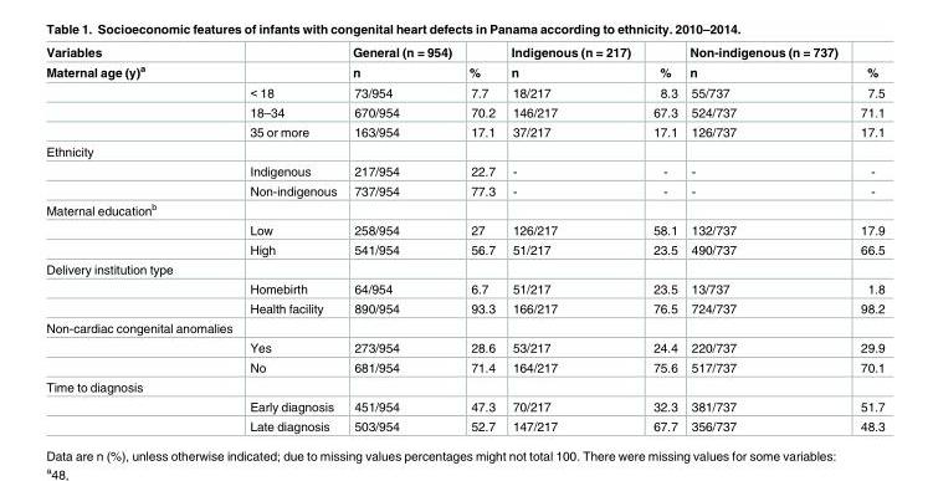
<table><thead><tr><td rowspan="2">Variables Maternal age (y)<sup>a</sup></td><td rowspan="2"></td><td rowspan="2">General (n = 954) n</td><td rowspan="2">%</td><td rowspan="2">Indigenous (n = 217) n</td><td rowspan="2">%</td><td rowspan="2">Non-indigenous (n = 737) n</td><td rowspan="2">%</td></tr><tr></tr></thead><tbody><tr><td></td><td>&lt; 18</td><td>73/954</td><td>7.7</td><td>18/217</td><td>8.3</td><td>55/737</td><td>7.5</td></tr><tr><td></td><td>18–34</td><td>670/954</td><td>70.2</td><td>146/217</td><td>67.3</td><td>524/737</td><td>71.1</td></tr><tr><td></td><td>35 or more</td><td>163/954</td><td>17.1</td><td>37/217</td><td>17.1</td><td>126/737</td><td>17.1</td></tr><tr><td colspan="8">Ethnicity</td></tr><tr><td></td><td>Indigenous</td><td>217/954</td><td>22.7</td><td>-</td><td>-</td><td>-</td><td>-</td></tr><tr><td></td><td>Non-indigenous</td><td>737/954</td><td>77.3</td><td>-</td><td>-</td><td>-</td><td>-</td></tr><tr><td colspan="8">Maternal education<sup>b</sup></td></tr><tr><td></td><td>Low</td><td>258/954</td><td>27</td><td>126/217</td><td>58.1</td><td>132/737</td><td>17.9</td></tr><tr><td></td><td>High</td><td>541/954</td><td>56.7</td><td>51/217</td><td>23.5</td><td>490/737</td><td>66.5</td></tr><tr><td colspan="8">Delivery institution type</td></tr><tr><td></td><td>Homebirth</td><td>64/954</td><td>6.7</td><td>51/217</td><td>23.5</td><td>13/737</td><td>1.8</td></tr><tr><td></td><td>Health facility</td><td>890/954</td><td>93.3</td><td>166/217</td><td>76.5</td><td>724/737</td><td>98.2</td></tr><tr><td colspan="8">Non-cardiac congenital anomalies</td></tr><tr><td></td><td>Yes</td><td>273/954</td><td>28.6</td><td>53/217</td><td>24.4</td><td>220/737</td><td>29.9</td></tr><tr><td></td><td>No</td><td>681/954</td><td>71.4</td><td>164/217</td><td>75.6</td><td>517/737</td><td>70.1</td></tr><tr><td colspan="8">Time to diagnosis</td></tr><tr><td></td><td>Early diagnosis</td><td>451/954</td><td>47.3</td><td>70/217</td><td>32.3</td><td>381/737</td><td>51.7</td></tr><tr><td></td><td>Late diagnosis</td><td>503/954</td><td>52.7</td><td>147/217</td><td>67.7</td><td>356/737</td><td>48.3</td></tr></tbody></table>